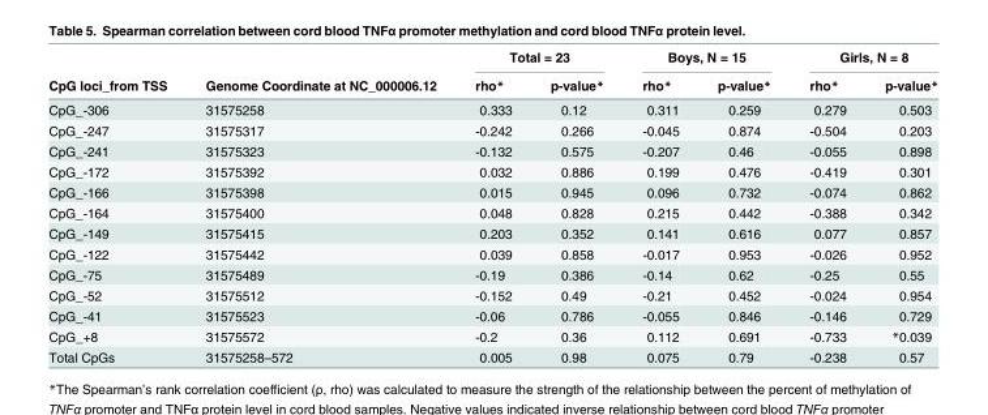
<table><thead><tr><td rowspan="2">CpG loci_from TSS</td><td rowspan="2">Genome Coordinate at NC_000006.12</td><td colspan="2">Total = 23</td><td colspan="2">Boys, N = 15</td><td colspan="2">Girls, N = 8</td></tr><tr><td>rho*</td><td>p-value*</td><td>rho*</td><td>p-value*</td><td>rho*</td><td>p-value*</td></tr></thead><tbody><tr><td>CpG_-306</td><td>31575258</td><td>0.333</td><td>0.12</td><td>0.311</td><td>0.259</td><td>0.279</td><td>0.503</td></tr><tr><td>CpG_-247</td><td>31575317</td><td>-0.242</td><td>0.266</td><td>-0.045</td><td>0.874</td><td>-0.504</td><td>0.203</td></tr><tr><td>CpG_-241</td><td>31575323</td><td>-0.132</td><td>0.575</td><td>-0.207</td><td>0.46</td><td>-0.055</td><td>0.898</td></tr><tr><td>CpG_-172</td><td>31575392</td><td>0.032</td><td>0.886</td><td>0.199</td><td>0.476</td><td>-0.419</td><td>0.301</td></tr><tr><td>CpG_-166</td><td>31575398</td><td>0.015</td><td>0.945</td><td>0.096</td><td>0.732</td><td>-0.074</td><td>0.862</td></tr><tr><td>CpG_-164</td><td>31575400</td><td>0.048</td><td>0.828</td><td>0.215</td><td>0.442</td><td>-0.388</td><td>0.342</td></tr><tr><td>CpG_-149</td><td>31575415</td><td>0.203</td><td>0.352</td><td>0.141</td><td>0.616</td><td>0.077</td><td>0.857</td></tr><tr><td>CpG_-122</td><td>31575442</td><td>0.039</td><td>0.858</td><td>-0.017</td><td>0.953</td><td>-0.026</td><td>0.952</td></tr><tr><td>CpG_-75</td><td>31575489</td><td>-0.19</td><td>0.386</td><td>-0.14</td><td>0.62</td><td>-0.25</td><td>0.55</td></tr><tr><td>CpG_-52</td><td>31575512</td><td>-0.152</td><td>0.49</td><td>-0.21</td><td>0.452</td><td>-0.024</td><td>0.954</td></tr><tr><td>CpG_-41</td><td>31575523</td><td>-0.06</td><td>0.786</td><td>-0.055</td><td>0.846</td><td>-0.146</td><td>0.729</td></tr><tr><td>CpG_+8</td><td>31575572</td><td>-0.2</td><td>0.36</td><td>0.112</td><td>0.691</td><td>-0.733</td><td>*0.039</td></tr><tr><td>Total CpGs</td><td>31575258–572</td><td>0.005</td><td>0.98</td><td>0.075</td><td>0.79</td><td>-0.238</td><td>0.57</td></tr></tbody></table>